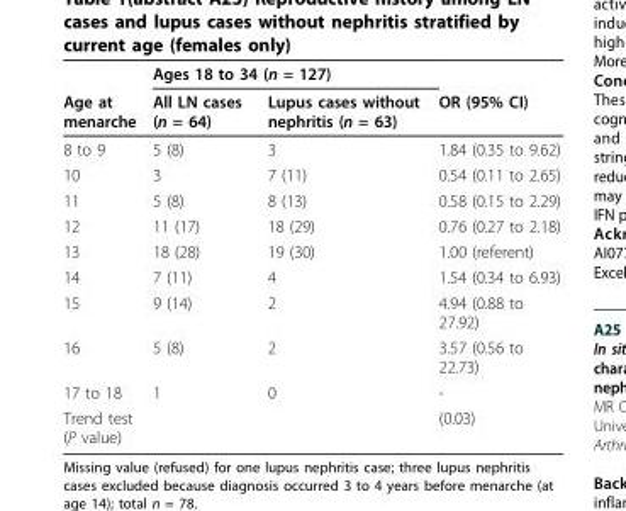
<table><thead><tr><td rowspan="2">Age at menarche</td><td colspan="2">Ages 18 to 34 (n = 127)</td><td rowspan="2">OR (95% CI)</td></tr><tr><td>All LN cases (n = 64)</td><td>Lupus cases without nephritis (n = 63)</td></tr></thead><tbody><tr><td>8 to 9</td><td>5 (8)</td><td>3</td><td>1.84 (0.35 to 9.62)</td></tr><tr><td>10</td><td>3</td><td>7 (11)</td><td>0.54 (0.11 to 2.65)</td></tr><tr><td>11</td><td>5 (8)</td><td>8 (13)</td><td>0.58 (0.15 to 2.29)</td></tr><tr><td>12</td><td>11 (17)</td><td>18 (29)</td><td>0.76 (0.27 to 2.18)</td></tr><tr><td>13</td><td>18 (28)</td><td>19 (30)</td><td>1.00 (referent)</td></tr><tr><td>14</td><td>7 (11)</td><td>4</td><td>1.54 (0.34 to 6.93)</td></tr><tr><td>15</td><td>9 (14)</td><td>2</td><td>4.94 (0.88 to 27.92)</td></tr><tr><td>16</td><td>5 (8)</td><td>2</td><td>3.57 (0.56 to 22.73)</td></tr><tr><td>17 to 18</td><td>1</td><td>0</td><td>-</td></tr><tr><td>Trend test (P value)</td><td></td><td></td><td>(0.03)</td></tr></tbody></table>